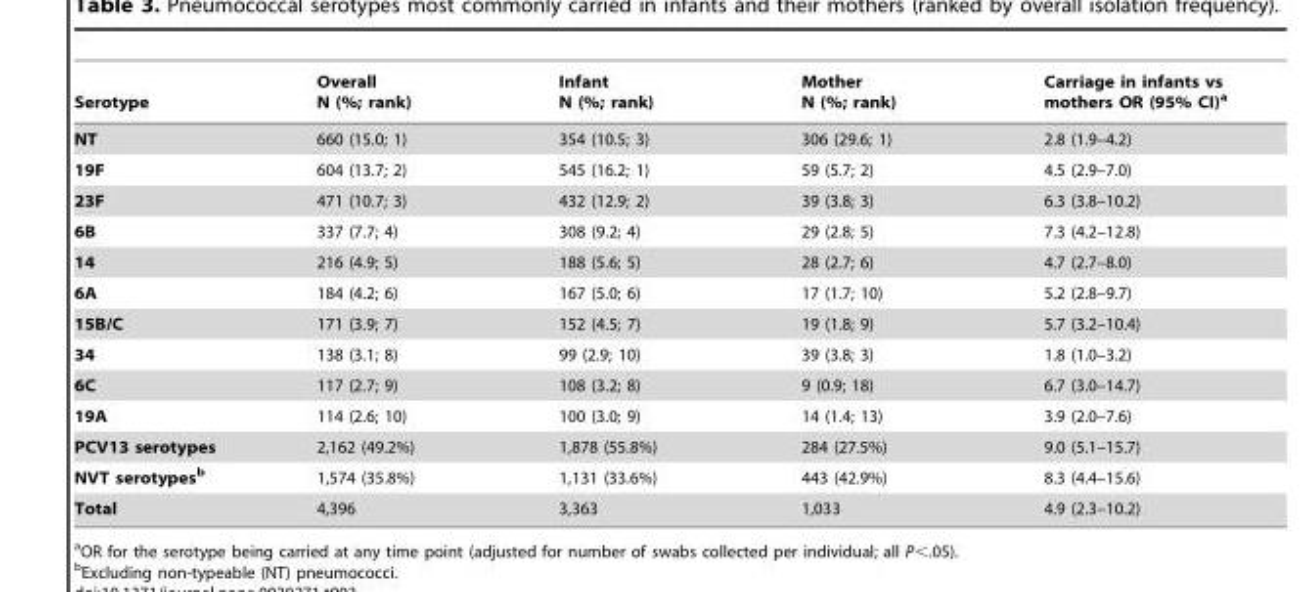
<table><thead><tr><td>Serotype</td><td>Overall N (%; rank)</td><td>Infant N (%; rank)</td><td>Mother N (%; rank)</td><td>Carriage in infants vs mothers OR (95% CI)<sup>a</sup></td></tr></thead><tbody><tr><td>NT</td><td>660 (15.0; 1)</td><td>354 (10.5; 3)</td><td>306 (29.6; 1)</td><td>2.8 (1.9–4.2)</td></tr><tr><td>19F</td><td>604 (13.7; 2)</td><td>545 (16.2; 1)</td><td>59 (5.7; 2)</td><td>4.5 (2.9–7.0)</td></tr><tr><td>23F</td><td>471 (10.7; 3)</td><td>432 (12.9; 2)</td><td>39 (3.8; 3)</td><td>6.3 (3.8–10.2)</td></tr><tr><td>6B</td><td>337 (7.7; 4)</td><td>308 (9.2; 4)</td><td>29 (2.8; 5)</td><td>7.3 (4.2–12.8)</td></tr><tr><td>14</td><td>216 (4.9; 5)</td><td>188 (5.6; 5)</td><td>28 (2.7; 6)</td><td>4.7 (2.7–8.0)</td></tr><tr><td>6A</td><td>184 (4.2; 6)</td><td>167 (5.0; 6)</td><td>17 (1.7; 10)</td><td>5.2 (2.8–9.7)</td></tr><tr><td>15B/C</td><td>171 (3.9; 7)</td><td>152 (4.5; 7)</td><td>19 (1.8; 9)</td><td>5.7 (3.2–10.4)</td></tr><tr><td>34</td><td>138 (3.1; 8)</td><td>99 (2.9; 10)</td><td>39 (3.8; 3)</td><td>1.8 (1.0–3.2)</td></tr><tr><td>6C</td><td>117 (2.7; 9)</td><td>108 (3.2; 8)</td><td>9 (0.9; 18)</td><td>6.7 (3.0–14.7)</td></tr><tr><td>19A</td><td>114 (2.6; 10)</td><td>100 (3.0; 9)</td><td>14 (1.4; 13)</td><td>3.9 (2.0–7.6)</td></tr><tr><td>PCV13 serotypes</td><td>2,162 (49.2%)</td><td>1,878 (55.8%)</td><td>284 (27.5%)</td><td>9.0 (5.1–15.7)</td></tr><tr><td>NVT serotypesb</td><td>1,574 (35.8%)</td><td>1,131 (33.6%)</td><td>443 (42.9%)</td><td>8.3 (4.4–15.6)</td></tr><tr><td>Total</td><td>4,396</td><td>3,363</td><td>1,033</td><td>4.9 (2.3–10.2)</td></tr></tbody></table>